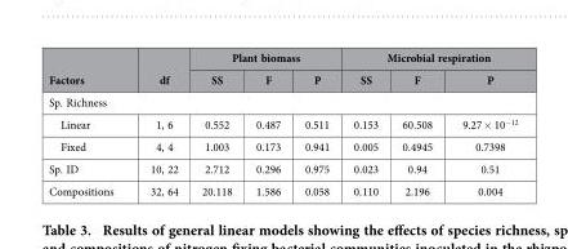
<table><thead><tr><td rowspan="2">Factors</td><td rowspan="2">df</td><td colspan="3">Plant biomass</td><td colspan="3">Microbial respiration</td></tr><tr><td>SS</td><td>F</td><td>P</td><td>SS</td><td>F</td><td>P</td></tr></thead><tbody><tr><td colspan="8">Sp. Richness</td></tr><tr><td>Linear</td><td>1, 6</td><td>0.552</td><td>0.487</td><td>0.511</td><td>0.153</td><td>60.508</td><td>9.27 × 10<sup>−12</sup></td></tr><tr><td>Fixed</td><td>4, 4</td><td>1.003</td><td>0.173</td><td>0.941</td><td>0.005</td><td>0.4945</td><td>0.7398</td></tr><tr><td>Sp. ID</td><td>10, 22</td><td>2.712</td><td>0.296</td><td>0.975</td><td>0.023</td><td>0.94</td><td>0.51</td></tr><tr><td>Compositions</td><td>32, 64</td><td>20.118</td><td>1.586</td><td>0.058</td><td>0.110</td><td>2.196</td><td>0.004</td></tr></tbody></table>